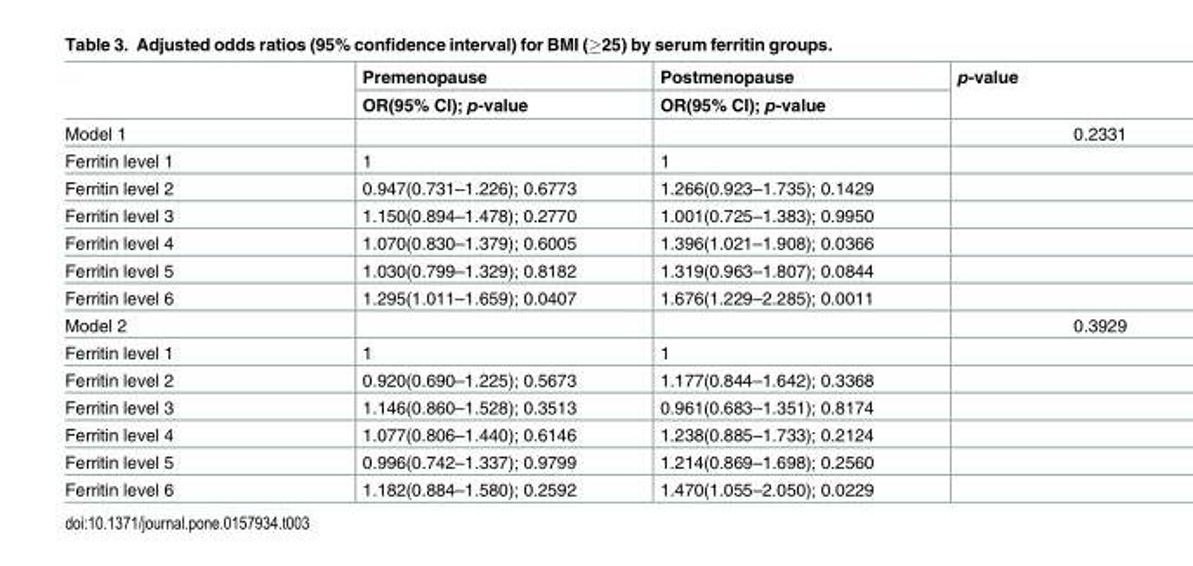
<table><thead><tr><td rowspan="2"></td><td rowspan="2">Premenopause OR(95% CI); p-value</td><td rowspan="2">Postmenopause OR(95% CI); p-value</td><td rowspan="2">p-value</td></tr><tr></tr></thead><tbody><tr><td>Model 1</td><td></td><td></td><td>0.2331</td></tr><tr><td>Ferritin level 1</td><td>1</td><td>1</td><td></td></tr><tr><td>Ferritin level 2</td><td>0.947(0.731–1.226); 0.6773</td><td>1.266(0.923–1.735); 0.1429</td><td></td></tr><tr><td>Ferritin level 3</td><td>1.150(0.894–1.478); 0.2770</td><td>1.001(0.725–1.383); 0.9950</td><td></td></tr><tr><td>Ferritin level 4</td><td>1.070(0.830–1.379); 0.6005</td><td>1.396(1.021–1.908); 0.0366</td><td></td></tr><tr><td>Ferritin level 5</td><td>1.030(0.799–1.329); 0.8182</td><td>1.319(0.963–1.807); 0.0844</td><td></td></tr><tr><td>Ferritin level 6</td><td>1.295(1.011–1.659); 0.0407</td><td>1.676(1.229–2.285); 0.0011</td><td></td></tr><tr><td>Model 2</td><td></td><td></td><td>0.3929</td></tr><tr><td>Ferritin level 1</td><td>1</td><td>1</td><td></td></tr><tr><td>Ferritin level 2</td><td>0.920(0.690–1.225); 0.5673</td><td>1.177(0.844–1.642); 0.3368</td><td></td></tr><tr><td>Ferritin level 3</td><td>1.146(0.860–1.528); 0.3513</td><td>0.961(0.683–1.351); 0.8174</td><td></td></tr><tr><td>Ferritin level 4</td><td>1.077(0.806–1.440); 0.6146</td><td>1.238(0.885–1.733); 0.2124</td><td></td></tr><tr><td>Ferritin level 5</td><td>0.996(0.742–1.337); 0.9799</td><td>1.214(0.869–1.698); 0.2560</td><td></td></tr><tr><td>Ferritin level 6</td><td>1.182(0.884–1.580); 0.2592</td><td>1.470(1.055–2.050); 0.0229</td><td></td></tr></tbody></table>